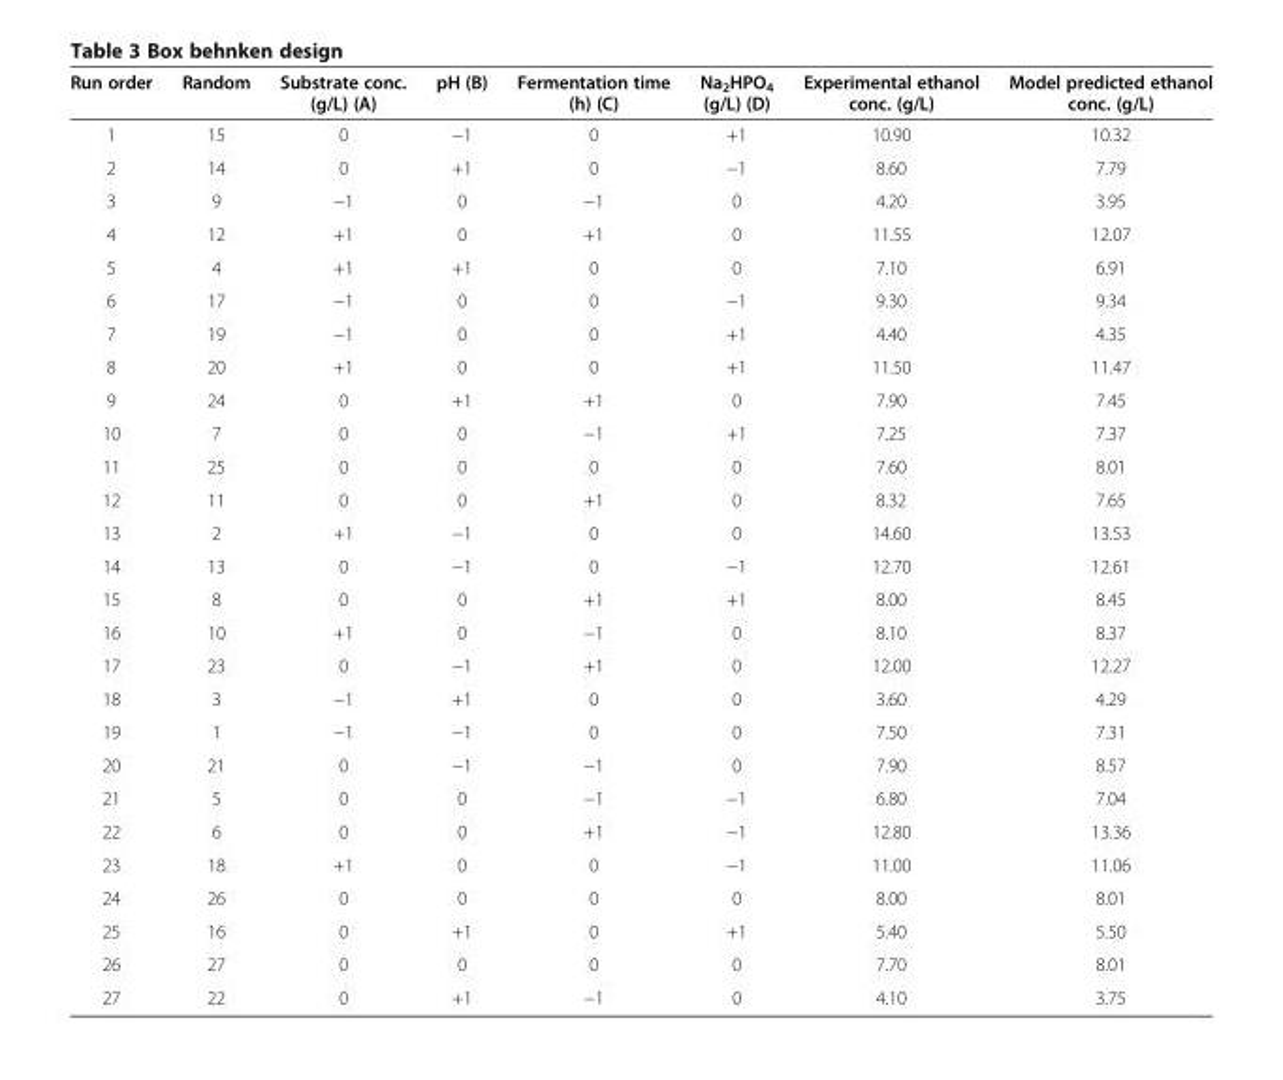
<table><thead><tr><td>Run order</td><td>Random</td><td>Substrate conc. (g/L) (A)</td><td>pH (B)</td><td>Fermentation time (h) (C)</td><td>Na<sub>2</sub>HPO<sub>4</sub> (g/L) (D)</td><td>Experimental ethanol conc. (g/L)</td><td>Model predicted ethanol conc. (g/L)</td></tr></thead><tbody><tr><td>1</td><td>15</td><td>0</td><td>−1</td><td>0</td><td>+1</td><td>10.90</td><td>10.32</td></tr><tr><td>2</td><td>14</td><td>0</td><td>+1</td><td>0</td><td>−1</td><td>8.60</td><td>7.79</td></tr><tr><td>3</td><td>9</td><td>−1</td><td>0</td><td>−1</td><td>0</td><td>4.20</td><td>3.95</td></tr><tr><td>4</td><td>12</td><td>+1</td><td>0</td><td>+1</td><td>0</td><td>11.55</td><td>12.07</td></tr><tr><td>5</td><td>4</td><td>+1</td><td>+1</td><td>0</td><td>0</td><td>7.10</td><td>6.91</td></tr><tr><td>6</td><td>17</td><td>−1</td><td>0</td><td>0</td><td>−1</td><td>9.30</td><td>9.34</td></tr><tr><td>7</td><td>19</td><td>−1</td><td>0</td><td>0</td><td>+1</td><td>4.40</td><td>4.35</td></tr><tr><td>8</td><td>20</td><td>+1</td><td>0</td><td>0</td><td>+1</td><td>11.50</td><td>11.47</td></tr><tr><td>9</td><td>24</td><td>0</td><td>+1</td><td>+1</td><td>0</td><td>7.90</td><td>7.45</td></tr><tr><td>10</td><td>7</td><td>0</td><td>0</td><td>−1</td><td>+1</td><td>7.25</td><td>7.37</td></tr><tr><td>11</td><td>25</td><td>0</td><td>0</td><td>0</td><td>0</td><td>7.60</td><td>8.01</td></tr><tr><td>12</td><td>11</td><td>0</td><td>0</td><td>+1</td><td>0</td><td>8.32</td><td>7.65</td></tr><tr><td>13</td><td>2</td><td>+1</td><td>−1</td><td>0</td><td>0</td><td>14.60</td><td>13.53</td></tr><tr><td>14</td><td>13</td><td>0</td><td>−1</td><td>0</td><td>−1</td><td>12.70</td><td>12.61</td></tr><tr><td>15</td><td>8</td><td>0</td><td>0</td><td>+1</td><td>+1</td><td>8.00</td><td>8.45</td></tr><tr><td>16</td><td>10</td><td>+1</td><td>0</td><td>−1</td><td>0</td><td>8.10</td><td>8.37</td></tr><tr><td>17</td><td>23</td><td>0</td><td>−1</td><td>+1</td><td>0</td><td>12.00</td><td>12.27</td></tr><tr><td>18</td><td>3</td><td>−1</td><td>+1</td><td>0</td><td>0</td><td>3.60</td><td>4.29</td></tr><tr><td>19</td><td>1</td><td>−1</td><td>−1</td><td>0</td><td>0</td><td>7.50</td><td>7.31</td></tr><tr><td>20</td><td>21</td><td>0</td><td>−1</td><td>−1</td><td>0</td><td>7.90</td><td>8.57</td></tr><tr><td>21</td><td>5</td><td>0</td><td>0</td><td>−1</td><td>−1</td><td>6.80</td><td>7.04</td></tr><tr><td>22</td><td>6</td><td>0</td><td>0</td><td>+1</td><td>−1</td><td>12.80</td><td>13.36</td></tr><tr><td>23</td><td>18</td><td>+1</td><td>0</td><td>0</td><td>−1</td><td>11.00</td><td>11.06</td></tr><tr><td>24</td><td>26</td><td>0</td><td>0</td><td>0</td><td>0</td><td>8.00</td><td>8.01</td></tr><tr><td>25</td><td>16</td><td>0</td><td>+1</td><td>0</td><td>+1</td><td>5.40</td><td>5.50</td></tr><tr><td>26</td><td>27</td><td>0</td><td>0</td><td>0</td><td>0</td><td>7.70</td><td>8.01</td></tr><tr><td>27</td><td>22</td><td>0</td><td>+1</td><td>−1</td><td>0</td><td>4.10</td><td>3.75</td></tr></tbody></table>